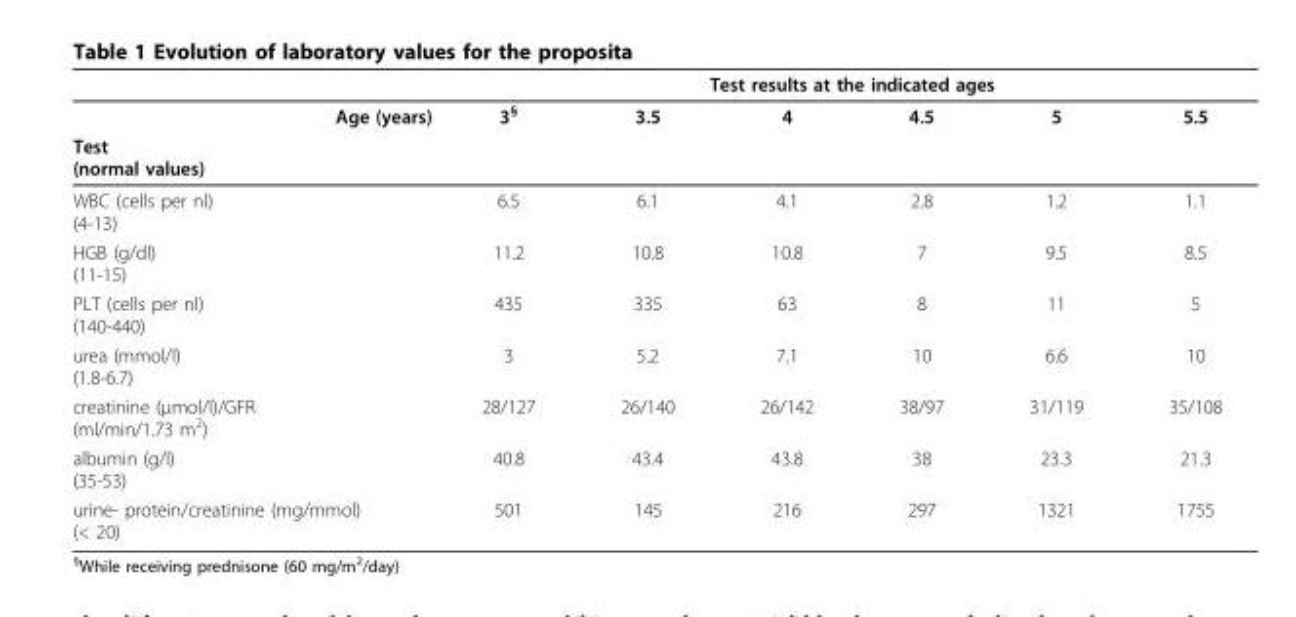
<table><thead><tr><td rowspan="2">Age (years)</td><td colspan="6">Test results at the indicated ages</td></tr><tr><td>3<sup>§</sup></td><td>3.5</td><td>4</td><td>4.5</td><td>5</td><td>5.5</td></tr></thead><tbody><tr><td colspan="7">Test (normal values)</td></tr><tr><td>WBC (cells per nl) (4-13)</td><td>6.5</td><td>6.1</td><td>4.1</td><td>2.8</td><td>1.2</td><td>1.1</td></tr><tr><td>HGB (g/dl) (11-15)</td><td>11.2</td><td>10.8</td><td>10.8</td><td>7</td><td>9.5</td><td>8.5</td></tr><tr><td>PLT (cells per nl) (140-440)</td><td>435</td><td>335</td><td>63</td><td>8</td><td>11</td><td>5</td></tr><tr><td>urea (mmol/l) (1.8-6.7)</td><td>3</td><td>5.2</td><td>7.1</td><td>10</td><td>6.6</td><td>10</td></tr><tr><td>creatinine (μmol/l)/GFR (ml/min/1.73 m<sup>2</sup>)</td><td>28/127</td><td>26/140</td><td>26/142</td><td>38/97</td><td>31/119</td><td>35/108</td></tr><tr><td>albumin (g/l) (35-53)</td><td>40.8</td><td>43.4</td><td>43.8</td><td>38</td><td>23.3</td><td>21.3</td></tr><tr><td>urine- protein/creatinine (mg/mmol) (&lt; 20)</td><td>501</td><td>145</td><td>216</td><td>297</td><td>1321</td><td>1755</td></tr></tbody></table>